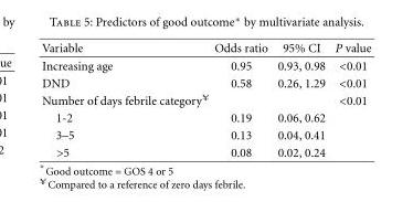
<table><thead><tr><td>Variable</td><td>Odds ratio</td><td>95% CI</td><td>P value</td></tr></thead><tbody><tr><td>Increasing age</td><td>0.95</td><td>0.93, 0.98</td><td>&lt;0.01</td></tr><tr><td>DND</td><td>0.58</td><td>0.26, 1.29</td><td>&lt;0.01</td></tr><tr><td>Number of days febrile category<sup>¥</sup></td><td></td><td></td><td>&lt;0.01</td></tr><tr><td>1-2</td><td>0.19</td><td>0.06, 0.62</td><td></td></tr><tr><td>3–5</td><td>0.13</td><td>0.04, 0.41</td><td></td></tr><tr><td>&gt;5</td><td>0.08</td><td>0.02, 0.24</td><td></td></tr></tbody></table>